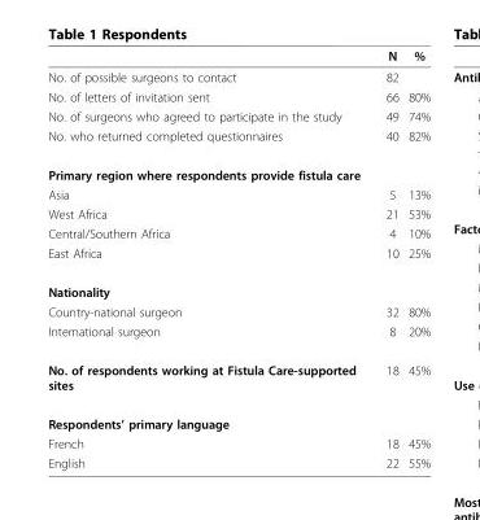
<table><thead><tr><td></td><td>N</td><td>%</td></tr></thead><tbody><tr><td>No. of possible surgeons to contact</td><td>82</td><td></td></tr><tr><td>No. of letters of invitation sent</td><td>66</td><td>80%</td></tr><tr><td>No. of surgeons who agreed to participate in the study</td><td>49</td><td>74%</td></tr><tr><td>No. who returned completed questionnaires</td><td>40</td><td>82%</td></tr><tr><td colspan="3">Primary region where respondents provide fistula care</td></tr><tr><td>Asia</td><td>5</td><td>13%</td></tr><tr><td>West Africa</td><td>21</td><td>53%</td></tr><tr><td>Central/Southern Africa</td><td>4</td><td>10%</td></tr><tr><td>East Africa</td><td>10</td><td>25%</td></tr><tr><td colspan="3">Nationality</td></tr><tr><td>Country-national surgeon</td><td>32</td><td>80%</td></tr><tr><td>International surgeon</td><td>8</td><td>20%</td></tr><tr><td>No. of respondents working at Fistula Care-supported sites</td><td>18</td><td>45%</td></tr><tr><td colspan="3">Respondents’ primary language</td></tr><tr><td>French</td><td>18</td><td>45%</td></tr><tr><td>English</td><td>22</td><td>55%</td></tr></tbody></table>